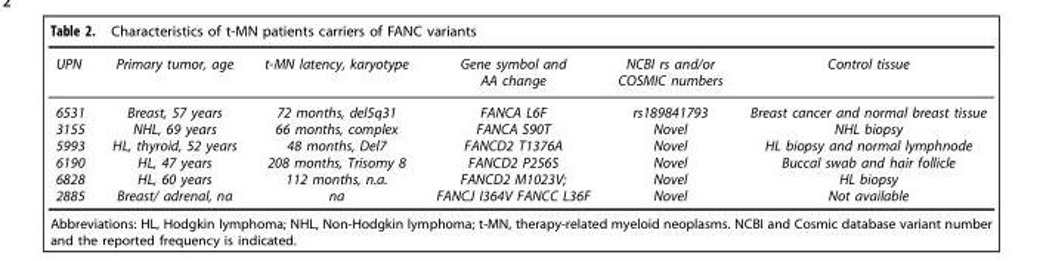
<table><thead><tr><td>UPN</td><td>Primary tumor, age</td><td>t-MN latency, karyotype</td><td>Gene symbol and AA change</td><td>NCBI rs and/or COSMIC numbers</td><td>Control tissue</td></tr></thead><tbody><tr><td>6531</td><td>Breast, 57 years</td><td>72 months, del5q31</td><td>FANCA L6F</td><td>rs189841793</td><td>Breast cancer and normal breast tissue</td></tr><tr><td>3155</td><td>NHL, 69 years</td><td>66 months, complex</td><td>FANCA S90T</td><td>Novel</td><td>NHL biopsy</td></tr><tr><td>5993</td><td>HL, thyroid, 52 years</td><td>48 months, Del7</td><td>FANCD2 T1376A</td><td>Novel</td><td>HL biopsy and normal lymphnode</td></tr><tr><td>6190</td><td>HL, 47 years</td><td>208 months, Trisomy 8</td><td>FANCD2 P256S</td><td>Novel</td><td>Buccal swab and hair follicle</td></tr><tr><td>6828</td><td>HL, 60 years</td><td>112 months, n.a.</td><td>FANCD2 M1023V;</td><td>Novel</td><td>HL biopsy</td></tr><tr><td>2885</td><td>Breast/ adrenal, na</td><td>na</td><td>FANCJ I364V FANCC L36F</td><td>Novel</td><td>Not available</td></tr></tbody></table>